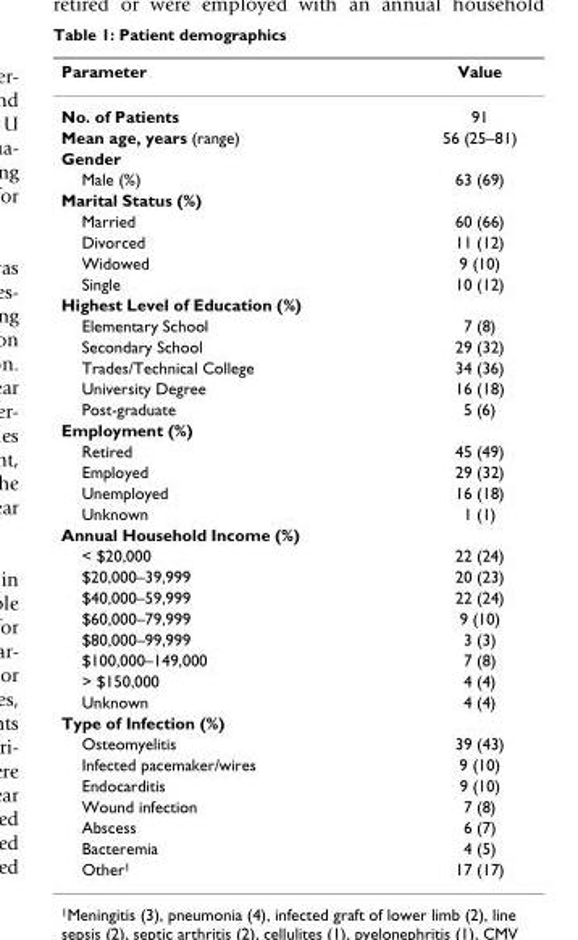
<table><thead><tr><td>Parameter</td><td>Value</td></tr></thead><tbody><tr><td>No. of Patients</td><td>91</td></tr><tr><td>Mean age, years (range)</td><td>56 (25–81)</td></tr><tr><td colspan="2">Gender</td></tr><tr><td>Male (%)</td><td>63 (69)</td></tr><tr><td colspan="2">Marital Status (%)</td></tr><tr><td>Married</td><td>60 (66)</td></tr><tr><td>Divorced</td><td>11 (12)</td></tr><tr><td>Widowed</td><td>9 (10)</td></tr><tr><td>Single</td><td>10 (12)</td></tr><tr><td colspan="2">Highest Level of Education (%)</td></tr><tr><td>Elementary School</td><td>7 (8)</td></tr><tr><td>Secondary School</td><td>29 (32)</td></tr><tr><td>Trades/Technical College</td><td>34 (36)</td></tr><tr><td>University Degree</td><td>16 (18)</td></tr><tr><td>Post-graduate</td><td>5 (6)</td></tr><tr><td colspan="2">Employment (%)</td></tr><tr><td>Retired</td><td>45 (49)</td></tr><tr><td>Employed</td><td>29 (32)</td></tr><tr><td>Unemployed</td><td>16 (18)</td></tr><tr><td>Unknown</td><td>1 (1)</td></tr><tr><td colspan="2">Annual Household Income (%)</td></tr><tr><td>&lt; $20,000</td><td>22 (24)</td></tr><tr><td>$20,000–39,999</td><td>20 (23)</td></tr><tr><td>$40,000–59,999</td><td>22 (24)</td></tr><tr><td>$60,000–79,999</td><td>9 (10)</td></tr><tr><td>$80,000–99,999</td><td>3 (3)</td></tr><tr><td>$100,000–149,000</td><td>7 (8)</td></tr><tr><td>&gt; $150,000</td><td>4 (4)</td></tr><tr><td>Unknown</td><td>4 (4)</td></tr><tr><td colspan="2">Type of Infection (%)</td></tr><tr><td>Osteomyelitis</td><td>39 (43)</td></tr><tr><td>Infected pacemaker/wires</td><td>9 (10)</td></tr><tr><td>Endocarditis</td><td>9 (10)</td></tr><tr><td>Wound infection</td><td>7 (8)</td></tr><tr><td>Abscess</td><td>6 (7)</td></tr><tr><td>Bacteremia</td><td>4 (5)</td></tr><tr><td>Other<sup>1</sup></td><td>17 (17)</td></tr></tbody></table>